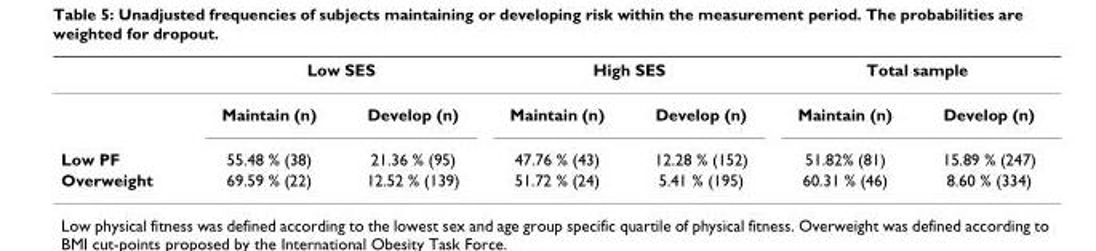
<table><thead><tr><td rowspan="2"></td><td colspan="2">Low SES</td><td colspan="2">High SES</td><td colspan="2">Total sample</td></tr><tr><td>Maintain (n)</td><td>Develop (n)</td><td>Maintain (n)</td><td>Develop (n)</td><td>Maintain (n)</td><td>Develop (n)</td></tr></thead><tbody><tr><td>Low PF</td><td>55.48 % (38)</td><td>21.36 % (95)</td><td>47.76 % (43)</td><td>12.28 % (152)</td><td>51.82% (81)</td><td>15.89 % (247)</td></tr><tr><td>Overweight</td><td>69.59 % (22)</td><td>12.52 % (139)</td><td>51.72 % (24)</td><td>5.41 % (195)</td><td>60.31 % (46)</td><td>8.60 % (334)</td></tr></tbody></table>